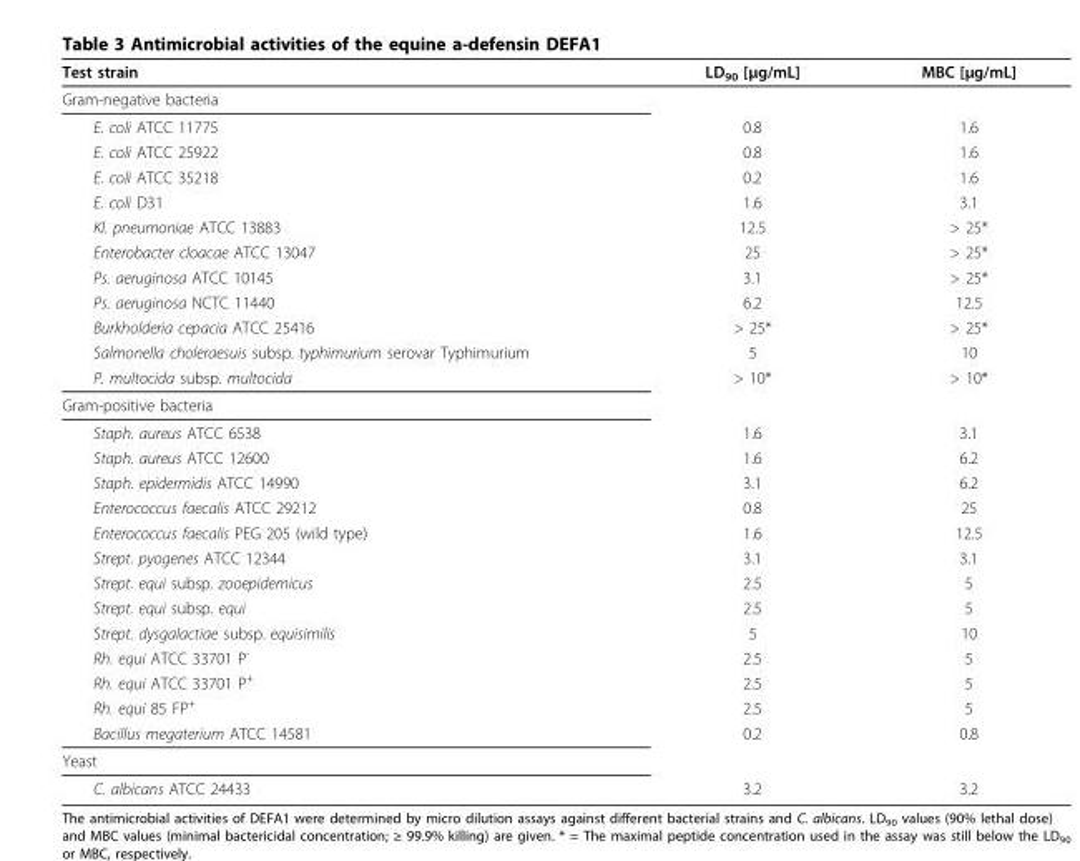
<table><thead><tr><td>Test strain</td><td>LD<sub>90</sub> [μg/mL]</td><td>MBC [μg/mL]</td></tr></thead><tbody><tr><td colspan="3">Gram-negative bacteria</td></tr><tr><td>E. coli ATCC 11775</td><td>0.8</td><td>1.6</td></tr><tr><td>E. coli ATCC 25922</td><td>0.8</td><td>1.6</td></tr><tr><td>E. coli ATCC 35218</td><td>0.2</td><td>1.6</td></tr><tr><td>E. coli D31</td><td>1.6</td><td>3.1</td></tr><tr><td>Kl. pneumoniae ATCC 13883</td><td>12.5</td><td>&gt; 25*</td></tr><tr><td>Enterobacter cloacae ATCC 13047</td><td>25</td><td>&gt; 25*</td></tr><tr><td>Ps. aeruginosa ATCC 10145</td><td>3.1</td><td>&gt; 25*</td></tr><tr><td>Ps. aeruginosa NCTC 11440</td><td>6.2</td><td>12.5</td></tr><tr><td>Burkholderia cepacia ATCC 25416</td><td>&gt; 25*</td><td>&gt; 25*</td></tr><tr><td>Salmonella choleraesuis subsp. typhimurium serovar Typhimurium</td><td>5</td><td>10</td></tr><tr><td>P. multocida subsp. multocida</td><td>&gt; 10*</td><td>&gt; 10*</td></tr><tr><td colspan="3">Gram-positive bacteria</td></tr><tr><td>Staph. aureus ATCC 6538</td><td>1.6</td><td>3.1</td></tr><tr><td>Staph. aureus ATCC 12600</td><td>1.6</td><td>6.2</td></tr><tr><td>Staph. epidermidis ATCC 14990</td><td>3.1</td><td>6.2</td></tr><tr><td>Enterococcus faecalis ATCC 29212</td><td>0.8</td><td>25</td></tr><tr><td>Enterococcus faecalis PEG 205 (wild type)</td><td>1.6</td><td>12.5</td></tr><tr><td>Strept. pyogenes ATCC 12344</td><td>3.1</td><td>3.1</td></tr><tr><td>Strept. equi subsp. zooepidemicus</td><td>2.5</td><td>5</td></tr><tr><td>Strept. equi subsp. equi</td><td>2.5</td><td>5</td></tr><tr><td>Strept. dysgalactiae subsp. equisimilis</td><td>5</td><td>10</td></tr><tr><td>Rh. equi ATCC 33701 P<sup>-</sup></td><td>2.5</td><td>5</td></tr><tr><td>Rh. equi ATCC 33701 P<sup>+</sup></td><td>2.5</td><td>5</td></tr><tr><td>Rh. equi 85 FP<sup>+</sup></td><td>2.5</td><td>5</td></tr><tr><td>Bacillus megaterium ATCC 14581</td><td>0.2</td><td>0.8</td></tr><tr><td colspan="3">Yeast</td></tr><tr><td>C. albicans ATCC 24433</td><td>3.2</td><td>3.2</td></tr></tbody></table>